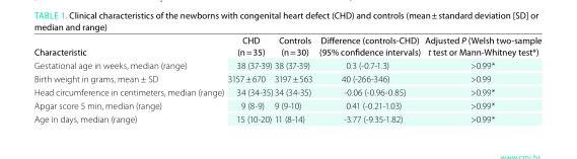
<table><thead><tr><td>Characteristic</td><td>CHD (n = 35)</td><td>Controls (n = 30)</td><td>Difference (controls-CHD) (95% confidence intervals)</td><td>adjusted P (Welsh two-sample t test or Mann-Whitney test*)</td></tr></thead><tbody><tr><td>Gestational age in weeks, median (range)</td><td>38 (37-39)</td><td>38 (37-39)</td><td>0.3 (-0.7-1.3)</td><td>&gt;0.99*</td></tr><tr><td>Birth weight in grams, mean ± SD</td><td>3157 ± 670</td><td>3197 ± 563</td><td>40 (-266-346)</td><td>&gt;0.99</td></tr><tr><td>Head circumference in centimeters, median (range)</td><td>34 (34-35)</td><td>34 (34-35)</td><td>-0.06 (-0.96-0.85)</td><td>&gt;0.99*</td></tr><tr><td>Apgar score 5 min, median (range)</td><td>9 (8-9)</td><td>9 (9-10)</td><td>0.41 (-0.21-1.03)</td><td>&gt;0.99*</td></tr><tr><td>Age in days, median (range)</td><td>15 (10-20)</td><td>11 (8-14)</td><td>-3.77 (-9.35-1.82)</td><td>&gt;0.99*</td></tr></tbody></table>